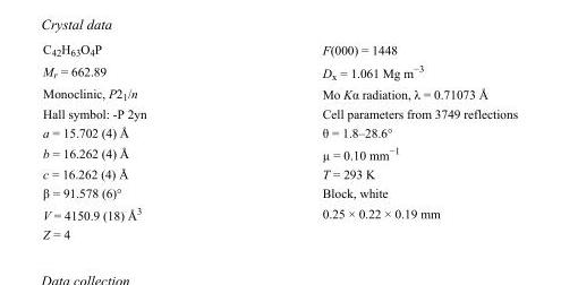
<table><tbody><tr><td>C<sub>42</sub>H<sub>63</sub>O<sub>4</sub>P</td><td>F(000) = 1448</td></tr><tr><td>M<sub>r</sub> = 662.89</td><td>D<sub>x</sub> = 1.061 Mg m<sup>−3</sup></td></tr><tr><td>Monoclinic, P2<sub>1</sub>/n</td><td>Mo Kα radiation, λ = 0.71073 Å</td></tr><tr><td>Hall symbol: -P 2yn</td><td>Cell parameters from 3749 reflections</td></tr><tr><td>a = 15.702 (4) Å</td><td>θ = 1.8–28.6°</td></tr><tr><td>b = 16.262 (4) Å</td><td>µ = 0.10 mm<sup>−1</sup></td></tr><tr><td>c = 16.262 (4) Å</td><td>T = 293 K</td></tr><tr><td>β = 91.578 (6)°</td><td>Block, white</td></tr><tr><td>V = 4150.9 (18) Å<sup>3</sup></td><td>0.25 × 0.22 × 0.19 mm</td></tr><tr><td>Z = 4</td><td></td></tr></tbody></table>